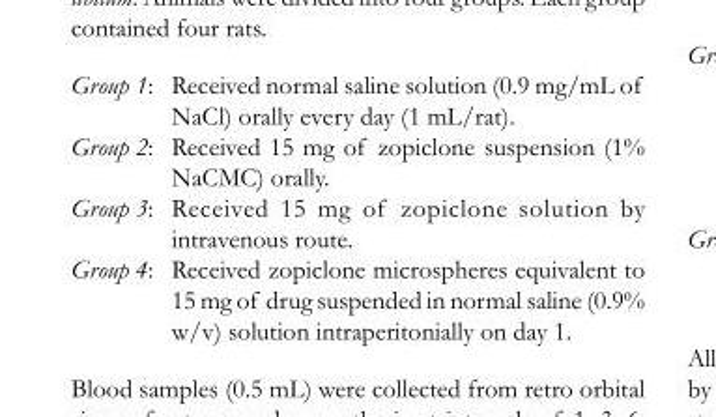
<table><tbody><tr><td>Group 1:</td><td>Received normal saline solution (0.9 mg/mL of NaCl) orally every day (1 mL/rat).</td></tr><tr><td>Group 2:</td><td>Received 15 mg of zopiclone suspension (1% NaCMC) orally.</td></tr><tr><td>Group 3:</td><td>Received 15 mg of zopiclone solution by intravenous route.</td></tr><tr><td>Group 4:</td><td>Received zopiclone microspheres equivalent to 15 mg of drug suspended in normal saline (0.9% w/v) solution intraperitonially on day 1.</td></tr></tbody></table>